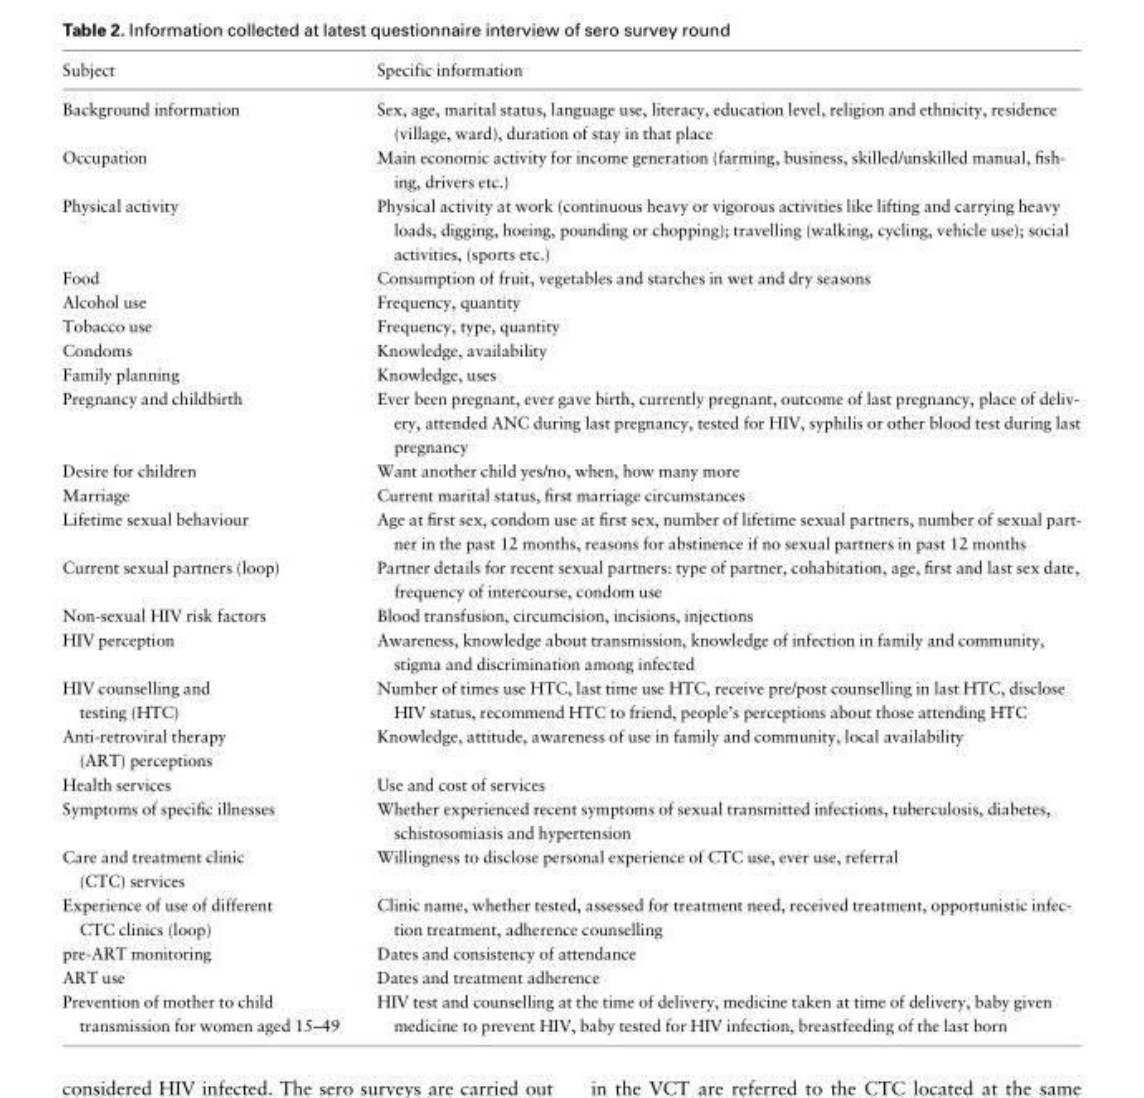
<table><thead><tr><td>Subject</td><td>Specific information</td></tr></thead><tbody><tr><td>Background information</td><td>Sex, age, marital status, language use, literacy, education level, religion and ethnicity, residence (village, ward), duration of stay in that place</td></tr><tr><td>Occupation</td><td>Main economic activity for income generation (farming, business, skilled/unskilled manual, fish- ing, drivers etc.)</td></tr><tr><td>Physical activity</td><td>Physical activity at work (continuous heavy or vigorous activities like lifting and carrying heavy loads, digging, hoeing, pounding or chopping); travelling (walking, cycling, vehicle use); social activities, (sports etc.)</td></tr><tr><td>Food</td><td>Consumption of fruit, vegetables and starches in wet and dry seasons</td></tr><tr><td>Alcohol use</td><td>Frequency, quantity</td></tr><tr><td>Tobacco use</td><td>Frequency, type, quantity</td></tr><tr><td>Condoms</td><td>Knowledge, availability</td></tr><tr><td>Family planning</td><td>Knowledge, uses</td></tr><tr><td>Pregnancy and childbirth</td><td>Ever been pregnant, ever gave birth, currently pregnant, outcome of last pregnancy, place of deliv- ery, attended ANC during last pregnancy, tested for HIV, syphilis or other blood test during last pregnancy</td></tr><tr><td>Desire for children</td><td>Want another child yes/no, when, how many more</td></tr><tr><td>Marriage</td><td>Current marital status, first marriage circumstances</td></tr><tr><td>Lifetime sexual behaviour</td><td>Age at first sex, condom use at first sex, number of lifetime sexual partners, number of sexual part- ner in the past 12 months, reasons for abstinence if no sexual partners in past 12 months</td></tr><tr><td>Current sexual partners (loop)</td><td>Partner details for recent sexual partners: type of partner, cohabitation, age, first and last sex date, frequency of intercourse, condom use</td></tr><tr><td>Non-sexual HIV risk factors</td><td>Blood transfusion, circumcision, incisions, injections</td></tr><tr><td>HIV perception</td><td>Awareness, knowledge about transmission, knowledge of infection in family and community, stigma and discrimination among infected</td></tr><tr><td>HIV counselling and testing (HTC)</td><td>Number of times use HTC, last time use HTC, receive pre/post counselling in last HTC, disclose HIV status, recommend HTC to friend, people’s perceptions about those attending HTC</td></tr><tr><td>Anti-retroviral therapy (ART) perceptions</td><td>Knowledge, attitude, awareness of use in family and community, local availability</td></tr><tr><td>Health services</td><td>Use and cost of services</td></tr><tr><td>Symptoms of specific illnesses</td><td>Whether experienced recent symptoms of sexual transmitted infections, tuberculosis, diabetes, schistosomiasis and hypertension</td></tr><tr><td>Care and treatment clinic (CTC) services</td><td>Willingness to disclose personal experience of CTC use, ever use, referral</td></tr><tr><td>Experience of use of different CTC clinics (loop)</td><td>Clinic name, whether tested, assessed for treatment need, received treatment, opportunistic infec- tion treatment, adherence counselling</td></tr><tr><td>pre-ART monitoring</td><td>Dates and consistency of attendance</td></tr><tr><td>ART use</td><td>Dates and treatment adherence</td></tr><tr><td>Prevention of mother to child transmission for women aged 15–49</td><td>HIV test and counselling at the time of delivery, medicine taken at time of delivery, baby given medicine to prevent HIV, baby tested for HIV infection, breastfeeding of the last born</td></tr></tbody></table>